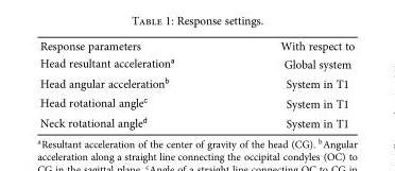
<table><tbody><tr><td>Response parameters</td><td>With respect to</td></tr><tr><td>Head resultant acceleration<sup>a</sup></td><td>Global system</td></tr><tr><td>Head angular acceleration<sup>b</sup></td><td>System in T1</td></tr><tr><td>Head rotational angle<sup>c</sup></td><td>System in T1</td></tr><tr><td>Neck rotational angle<sup>d</sup></td><td>System in T1</td></tr></tbody></table>